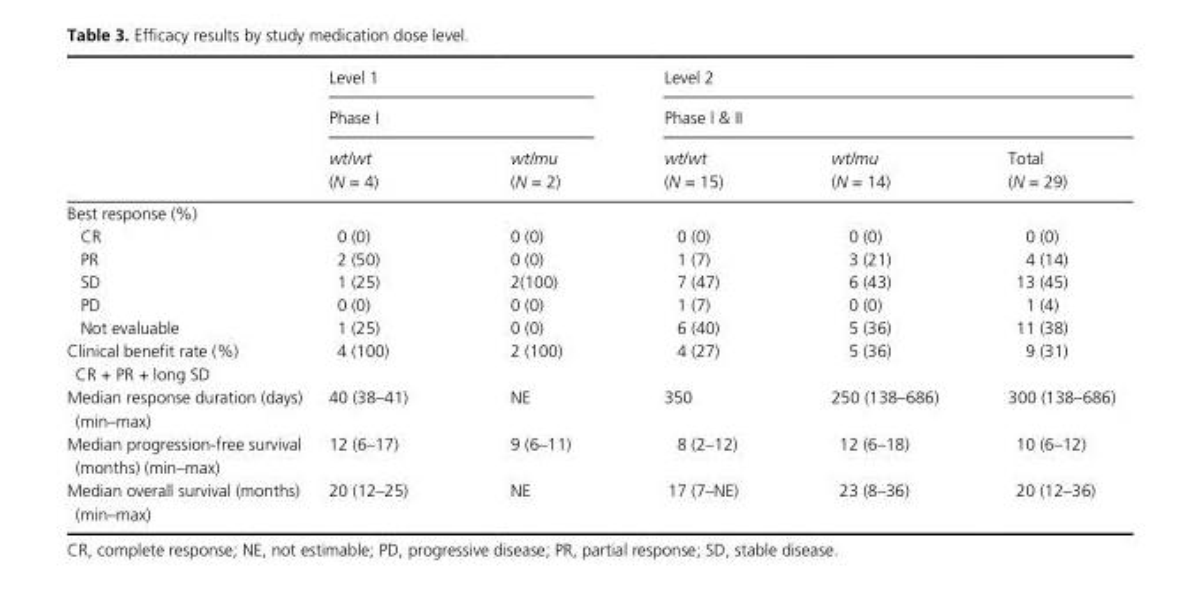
<table><thead><tr><td rowspan="3"></td><td rowspan="2" colspan="2">Level 1 Phase I</td><td rowspan="2" colspan="3">Level 2 Phase l &amp; II</td></tr><tr></tr><tr><td>wt/wt (N = 4)</td><td>wt/mu (N = 2)</td><td>wt/wt (N = 15)</td><td>wt/mu (N = 14)</td><td>Total (N = 29)</td></tr></thead><tbody><tr><td colspan="6">Best response (%)</td></tr><tr><td>CR</td><td>0 (0)</td><td>0 (0)</td><td>0 (0)</td><td>0 (0)</td><td>0 (0)</td></tr><tr><td>PR</td><td>2 (50)</td><td>0 (0)</td><td>1 (7)</td><td>3 (21)</td><td>4 (14)</td></tr><tr><td>SD</td><td>1 (25)</td><td>2(100)</td><td>7 (47)</td><td>6 (43)</td><td>13 (45)</td></tr><tr><td>PD</td><td>0 (0)</td><td>0 (0)</td><td>1 (7)</td><td>0 (0)</td><td>1 (4)</td></tr><tr><td>Not evaluable</td><td>1 (25)</td><td>0 (0)</td><td>6 (40)</td><td>5 (36)</td><td>11 (38)</td></tr><tr><td>Clinical benefit rate (%) CR + PR + long SD</td><td>4 (100)</td><td>2 (100)</td><td>4 (27)</td><td>5 (36)</td><td>9 (31)</td></tr><tr><td>Median response duration (days) (min–max)</td><td>40 (38–41)</td><td>NE</td><td>350</td><td>250 (138–686)</td><td>300 (138–686)</td></tr><tr><td>Median progression- free survival (months) (min–max)</td><td>12 (6–17)</td><td>9 (6–11)</td><td>8 (2–12)</td><td>12 (6–18)</td><td>10 (6–12)</td></tr><tr><td>Median overall survival (months) (min–max)</td><td>20 (12–25)</td><td>NE</td><td>17 (7–NE)</td><td>23 (8–36)</td><td>20 (12–36)</td></tr></tbody></table>